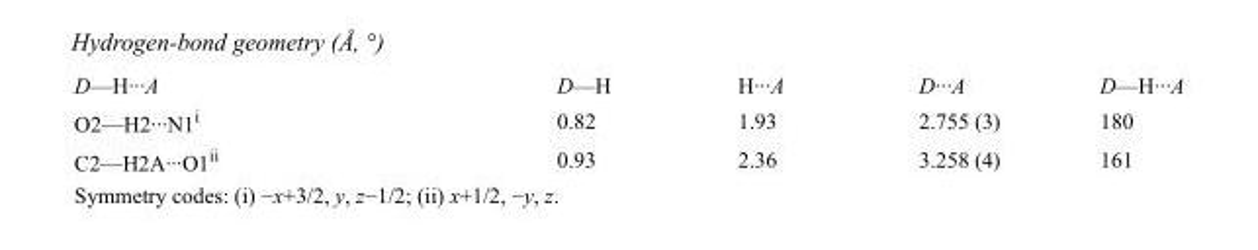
<table><tbody><tr><td>D—H···A</td><td>D—H</td><td>H···A</td><td>D···A</td><td>D—H···A</td></tr><tr><td>O2—H2···N1<sup>i</sup></td><td>0.82</td><td>1.93</td><td>2.755 (3)</td><td>180</td></tr><tr><td>C2—H2A···O1<sup>ii</sup></td><td>0.93</td><td>2.36</td><td>3.258 (4)</td><td>161</td></tr></tbody></table>